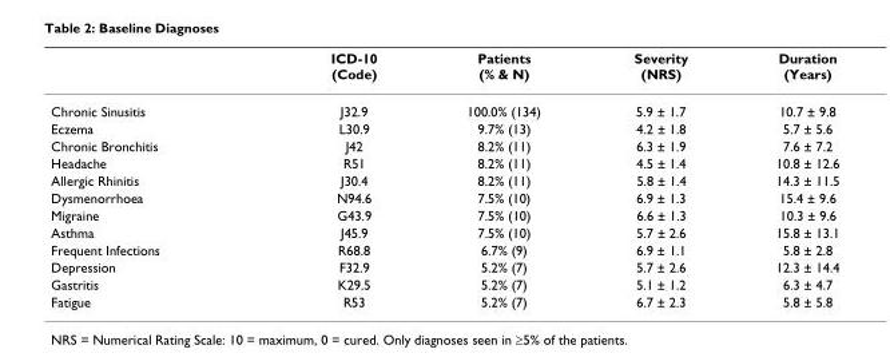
<table><thead><tr><td></td><td>ICD-10 (Code)</td><td>Patients (% &amp; N)</td><td>Severity (NRS)</td><td>Duration (Years)</td></tr></thead><tbody><tr><td>Chronic Sinusitis</td><td>J32.9</td><td>100.0% (134)</td><td>5.9 ± 1.7</td><td>10.7 ± 9.8</td></tr><tr><td>Eczema</td><td>L30.9</td><td>9.7% (13)</td><td>4.2 ± 1.8</td><td>5.7 ± 5.6</td></tr><tr><td>Chronic Bronchitis</td><td>J42</td><td>8.2% (11)</td><td>6.3 ± 1.9</td><td>7.6 ± 7.2</td></tr><tr><td>Headache</td><td>R51</td><td>8.2% (11)</td><td>4.5 ± 1.4</td><td>10.8 ± 12.6</td></tr><tr><td>Allergic Rhinitis</td><td>J30.4</td><td>8.2% (11)</td><td>5.8 ± 1.4</td><td>14.3 ± 11.5</td></tr><tr><td>Dysmenorrhoea</td><td>N94.6</td><td>7.5% (10)</td><td>6.9 ± 1.3</td><td>15.4 ± 9.6</td></tr><tr><td>Migraine</td><td>G43.9</td><td>7.5% (10)</td><td>6.6 ± 1.3</td><td>10.3 ± 9.6</td></tr><tr><td>Asthma</td><td>J45.9</td><td>7.5% (10)</td><td>5.7 ± 2.6</td><td>15.8 ± 13.1</td></tr><tr><td>Frequent Infections</td><td>R68.8</td><td>6.7% (9)</td><td>6.9 ± 1.1</td><td>5.8 ± 2.8</td></tr><tr><td>Depression</td><td>F32.9</td><td>5.2% (7)</td><td>5.7 ± 2.6</td><td>12.3 ± 14.4</td></tr><tr><td>Gastritis</td><td>K29.5</td><td>5.2% (7)</td><td>5.1 ± 1.2</td><td>6.3 ± 4.7</td></tr><tr><td>Fatigue</td><td>R53</td><td>5.2% (7)</td><td>6.7 ± 2.3</td><td>5.8 ± 5.8</td></tr></tbody></table>